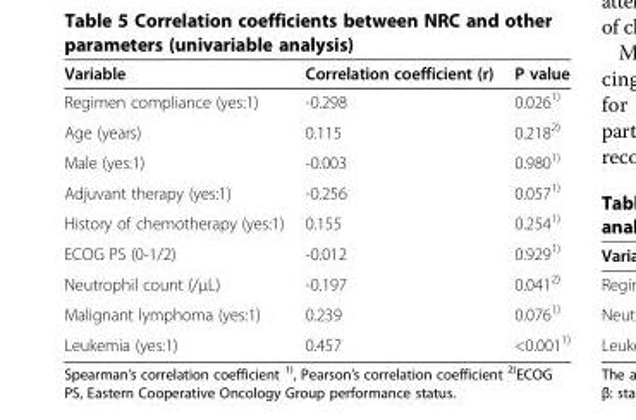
<table><thead><tr><td>Variable</td><td>Correlation coefficient (r)</td><td>P value</td></tr></thead><tbody><tr><td>Regimen compliance (yes:1)</td><td>-0.298</td><td>0.026<sup>1)</sup></td></tr><tr><td>Age (years)</td><td>0.115</td><td>0.218<sup>2)</sup></td></tr><tr><td>Male (yes:1)</td><td>-0.003</td><td>0.980<sup>1)</sup></td></tr><tr><td>Adjuvant therapy (yes:1)</td><td>-0.256</td><td>0.057<sup>1)</sup></td></tr><tr><td>History of chemotherapy (yes:1)</td><td>0.155</td><td>0.254<sup>1)</sup></td></tr><tr><td>ECOG PS (0-1/2)</td><td>-0.012</td><td>0.929<sup>1)</sup></td></tr><tr><td>Neutrophil count (/μL)</td><td>-0.197</td><td>0.041<sup>2)</sup></td></tr><tr><td>Malignant lymphoma (yes:1)</td><td>0.239</td><td>0.076<sup>1)</sup></td></tr><tr><td>Leukemia (yes:1)</td><td>0.457</td><td>&lt;0.001<sup>1)</sup></td></tr></tbody></table>